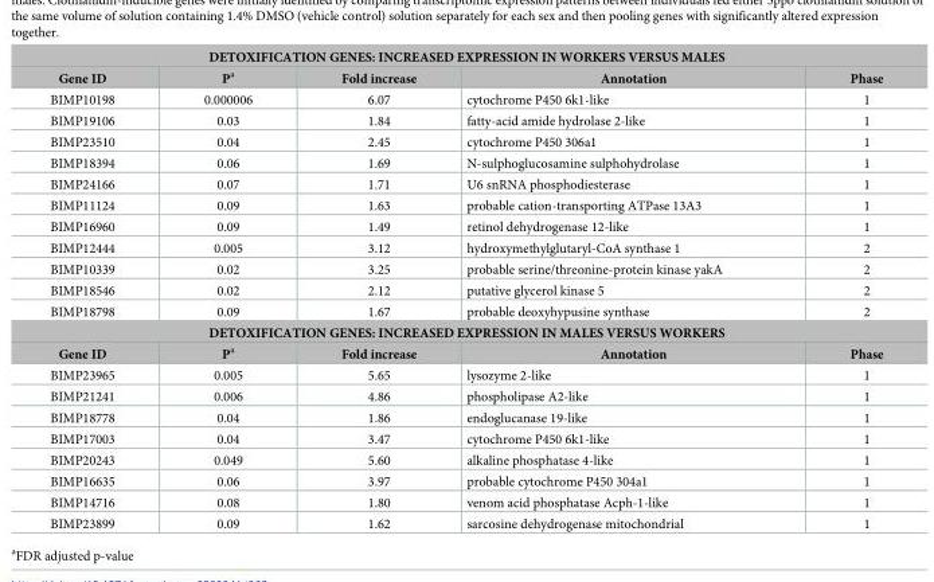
<table><tbody><tr><td colspan="5">DETOXIFICATION GENES: INCREASED EXPRESSION IN WORKERS VERSUS MALES</td></tr><tr><td>Gene ID</td><td>P<sup>a</sup></td><td>Fold increase</td><td>Annotation</td><td>Phase</td></tr><tr><td>BIMP10198</td><td>0.000006</td><td>6.07</td><td>cytochrome P450 6k1-like</td><td>1</td></tr><tr><td>BIMP19106</td><td>0.03</td><td>1.84</td><td>fatty-acid amide hydrolase 2-like</td><td>1</td></tr><tr><td>BIMP23510</td><td>0.04</td><td>2.45</td><td>cytochrome P450 306a1</td><td>1</td></tr><tr><td>BIMP18394</td><td>0.06</td><td>1.69</td><td>N-sulphoglucosamine sulphohydrolase</td><td>1</td></tr><tr><td>BIMP24166</td><td>0.07</td><td>1.71</td><td>U6 snRNA phosphodiesterase</td><td>1</td></tr><tr><td>BIMP11124</td><td>0.09</td><td>1.63</td><td>probable cation-transporting ATPase 13A3</td><td>1</td></tr><tr><td>BIMP16960</td><td>0.09</td><td>1.49</td><td>retinol dehydrogenase 12-like</td><td>1</td></tr><tr><td>BIMP12444</td><td>0.005</td><td>3.12</td><td>hydroxymethylglutaryl-CoA synthase 1</td><td>2</td></tr><tr><td>BIMP10339</td><td>0.02</td><td>3.25</td><td>probable serine/threonine-protein kinase yakA</td><td>2</td></tr><tr><td>BIMP18546</td><td>0.02</td><td>2.12</td><td>putative glycerol kinase 5</td><td>2</td></tr><tr><td>BIMP18798</td><td>0.09</td><td>1.67</td><td>probable deoxyhypusine synthase</td><td>2</td></tr><tr><td colspan="5">DETOXIFICATION GENES: INCREASED EXPRESSION IN MALES VERSUS WORKERS</td></tr><tr><td>Gene ID</td><td>P<sup>a</sup></td><td>Fold increase</td><td>Annotation</td><td>Phase</td></tr><tr><td>BIMP23965</td><td>0.005</td><td>5.65</td><td>lysozyme 2-like</td><td>1</td></tr><tr><td>BIMP21241</td><td>0.006</td><td>4.86</td><td>phospholipase A2-like</td><td>1</td></tr><tr><td>BIMP18778</td><td>0.04</td><td>1.86</td><td>endoglucanase 19-like</td><td>1</td></tr><tr><td>BIMP17003</td><td>0.04</td><td>3.47</td><td>cytochrome P450 6k1-like</td><td>1</td></tr><tr><td>BIMP20243</td><td>0.049</td><td>5.60</td><td>alkaline phosphatase 4-like</td><td>1</td></tr><tr><td>BIMP16635</td><td>0.06</td><td>3.97</td><td>probable cytochrome P450 304a1</td><td>1</td></tr><tr><td>BIMP14716</td><td>0.08</td><td>1.80</td><td>venom acid phosphatase Acph-1-like</td><td>1</td></tr><tr><td>BIMP23899</td><td>0.09</td><td>1.62</td><td>sarcosine dehydrogenase mitochondrial</td><td>1</td></tr></tbody></table>